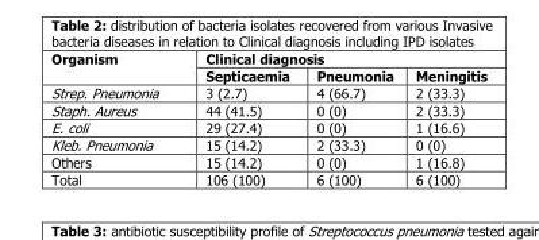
<table><thead><tr><td rowspan="2">Organism</td><td colspan="3">Clinical diagnosis</td></tr><tr><td>Septicaemia</td><td>Pneumonia</td><td>Meningitis</td></tr></thead><tbody><tr><td>Strep. Pneumonia</td><td>3 (2.7)</td><td>4 (66.7)</td><td>2 (33.3)</td></tr><tr><td>Staph. Aureus</td><td>44 (41.5)</td><td>0 (0)</td><td>2 (33.3)</td></tr><tr><td>E. coli</td><td>29 (27.4)</td><td>0 (0)</td><td>1 (16.6)</td></tr><tr><td>Kleb. Pneumonia</td><td>15 (14.2)</td><td>2 (33.3)</td><td>0 (0)</td></tr><tr><td>Others</td><td>15 (14.2)</td><td>0 (0)</td><td>1 (16.8)</td></tr><tr><td>Total</td><td>106 (100)</td><td>6 (100)</td><td>6 (100)</td></tr></tbody></table>